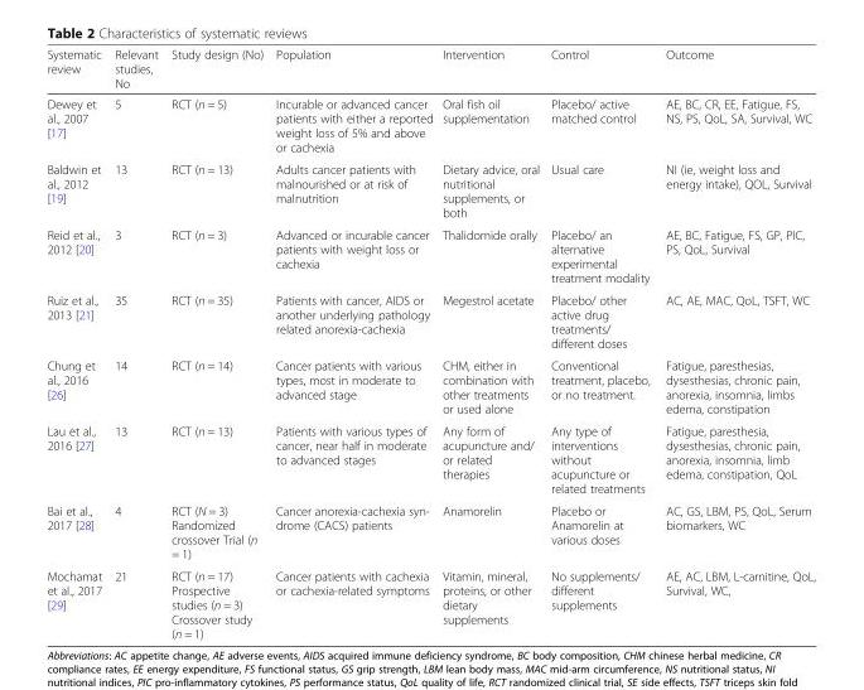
<table><thead><tr><td>Systematic review</td><td>Relevant studies, No</td><td>Study design (No)</td><td>Population</td><td>Intervention</td><td>Control</td><td>Outcome</td></tr></thead><tbody><tr><td>Dewey et al., 2007 [17]</td><td>5</td><td>RCT (n = 5)</td><td>Incurable or advanced cancer patients with either a reported weight loss of 5% and above or cachexia</td><td>Oral fish oil supplementation</td><td>Placebo/ active matched control</td><td>AE, BC, CR, EE, Fatigue, FS, NS, PS, QoL, SA, Survival, WC</td></tr><tr><td>Baldwin et al., 2012 [19]</td><td>13</td><td>RCT (n = 13)</td><td>Adults cancer patients with malnourished or at risk of malnutrition</td><td>Dietary advice, oral nutritional supplements, or both</td><td>Usual care</td><td>NI (ie, weight loss and energy intake), QOL, Survival</td></tr><tr><td>Reid et al., 2012 [20]</td><td>3</td><td>RCT (n = 3)</td><td>Advanced or incurable cancer patients with weight loss or cachexia</td><td>Thalidomide orally</td><td>Placebo/ an alternative experimental treatment modality</td><td>AE, BC, Fatigue, FS, GP, PIC, PS, QoL, Survival</td></tr><tr><td>Ruiz et al., 2013 [21]</td><td>35</td><td>RCT (n = 35)</td><td>Patients with cancer, AIDS or another underlying pathology related anorexia-cachexia</td><td>Megestrol acetate</td><td>Placebo/ other active drug treatments/ different doses</td><td>AC, AE, MAC, QoL, TSFT, WC</td></tr><tr><td>Chung et al., 2016 [26]</td><td>14</td><td>RCT (n = 14)</td><td>Cancer patients with various types, most in moderate to advanced stage</td><td>CHM, either in combination with other treatments or used alone</td><td>Conventional treatment, placebo, or no treatment.</td><td>Fatigue, paresthesias, dysesthesias, chronic pain, anorexia, insomnia, limbs edema, constipation</td></tr><tr><td>Lau et al., 2016 [27]</td><td>13</td><td>RCT (n = 13)</td><td>Patients with various types of cancer, near half in moderate to advanced stages</td><td>Any form of acupuncture and/ or related therapies</td><td>Any type of interventions without acupuncture or related treatments</td><td>Fatigue, paresthesia, dysesthesias, chronic pain, anorexia, insomnia, limb edema, constipation, QoL</td></tr><tr><td>Bai et al., 2017 [28]</td><td>4</td><td>RCT (N = 3) Randomized crossover Trial (n = 1)</td><td>Cancer anorexia-cachexia syn- drome (CACS) patients</td><td>Anamorelin</td><td>Placebo or Anamorelin at various doses</td><td>AC, GS, LBM, PS, QoL, Serum biomarkers, WC</td></tr><tr><td>Mochamat et al., 2017 [29]</td><td>21</td><td>RCT (n = 17) Prospective studies (n = 3) Crossover study (n = 1)</td><td>Cancer patients with cachexia or cachexia-related symptoms</td><td>Vitamin, mineral, proteins, or other dietary supplements</td><td>No supplements/ different supplements</td><td>AE, AC, LBM, L-carnitine, QoL, Survival, WC,</td></tr></tbody></table>